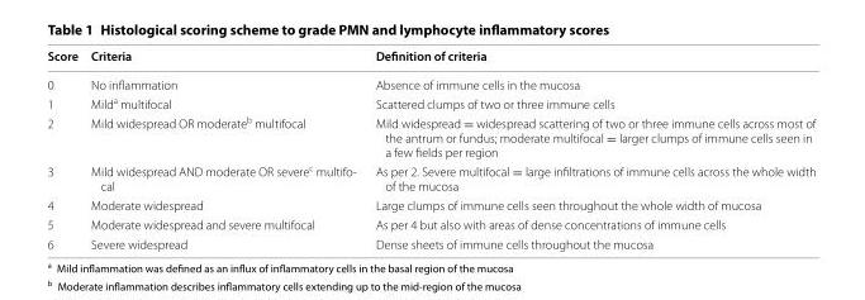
<table><thead><tr><td>Score</td><td>Criteria</td><td>Definition of criteria</td></tr></thead><tbody><tr><td>0</td><td>No inflammation</td><td>Absence of immune cells in the mucosa</td></tr><tr><td>1</td><td>Mild<sup>a</sup> multifocal</td><td>Scattered clumps of two or three immune cells</td></tr><tr><td>2</td><td>Mild widespread OR moderate<sup>b</sup> multifocal</td><td>Mild widespread = widespread scattering of two or three immune cells across most of the antrum or fundus; moderate multifocal = larger clumps of immune cells seen in a few fields per region</td></tr><tr><td>3</td><td>Mild widespread AND moderate OR severec multifo- cal</td><td>As per 2. Severe multifocal = large infiltrations of immune cells across the whole width of the mucosa</td></tr><tr><td>4</td><td>Moderate widespread</td><td>Large clumps of immune cells seen throughout the whole width of mucosa</td></tr><tr><td>5</td><td>Moderate widespread and severe multifocal</td><td>As per 4 but also with areas of dense concentrations of immune cells</td></tr><tr><td>6</td><td>Severe widespread</td><td>Dense sheets of immune cells throughout the mucosa</td></tr></tbody></table>